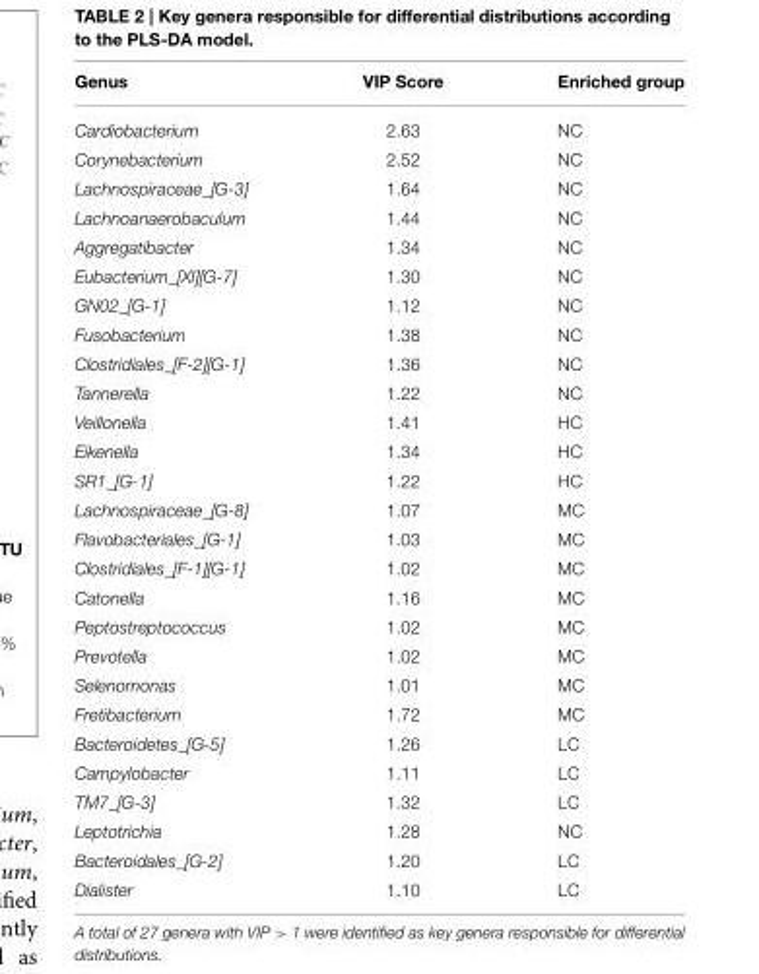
<table><thead><tr><td>Genus</td><td>VIP Score</td><td>Enriched group</td></tr></thead><tbody><tr><td>Cardiobacterium</td><td>2.63</td><td>NC</td></tr><tr><td>Corynebacterium</td><td>2.52</td><td>NC</td></tr><tr><td>Lachnospiraceae_[G-3]</td><td>1.64</td><td>NC</td></tr><tr><td>Lachnoanaerobaculum</td><td>1.44</td><td>NC</td></tr><tr><td>Aggregatibacter</td><td>1.34</td><td>NC</td></tr><tr><td>Eubacterium_[XI][G-7]</td><td>1.30</td><td>NC</td></tr><tr><td>GN02_[G-1]</td><td>1.12</td><td>NC</td></tr><tr><td>Fusobacterium</td><td>1.38</td><td>NC</td></tr><tr><td>Clostridiales_[F-2][G-1]</td><td>1.36</td><td>NC</td></tr><tr><td>Tannerella</td><td>1.22</td><td>NC</td></tr><tr><td>Veillonella</td><td>1.41</td><td>HC</td></tr><tr><td>Eikenella</td><td>1.34</td><td>HC</td></tr><tr><td>SR1_[G-1]</td><td>1.22</td><td>HC</td></tr><tr><td>Lachnospiraceae_[G-8]</td><td>1.07</td><td>MC</td></tr><tr><td>Flavobacteriales_[G-1]</td><td>1.03</td><td>MC</td></tr><tr><td>Clostridiales_[F-1][G-1]</td><td>1.02</td><td>MC</td></tr><tr><td>Catonella</td><td>1.16</td><td>MC</td></tr><tr><td>Peptostreptococcus</td><td>1.02</td><td>MC</td></tr><tr><td>Prevotella</td><td>1.02</td><td>MC</td></tr><tr><td>Selenomonas</td><td>1.01</td><td>MC</td></tr><tr><td>Fretibacterium</td><td>1.72</td><td>MC</td></tr><tr><td>Bacteroidetes_[G-5]</td><td>1.26</td><td>LC</td></tr><tr><td>Campylobacter</td><td>1.11</td><td>LC</td></tr><tr><td>TM7_[G-3]</td><td>1.32</td><td>LC</td></tr><tr><td>Leptotrichia</td><td>1.28</td><td>NC</td></tr><tr><td>Bacteroidales_[G-2]</td><td>1.20</td><td>LC</td></tr><tr><td>Dialister</td><td>1.10</td><td>LC</td></tr></tbody></table>